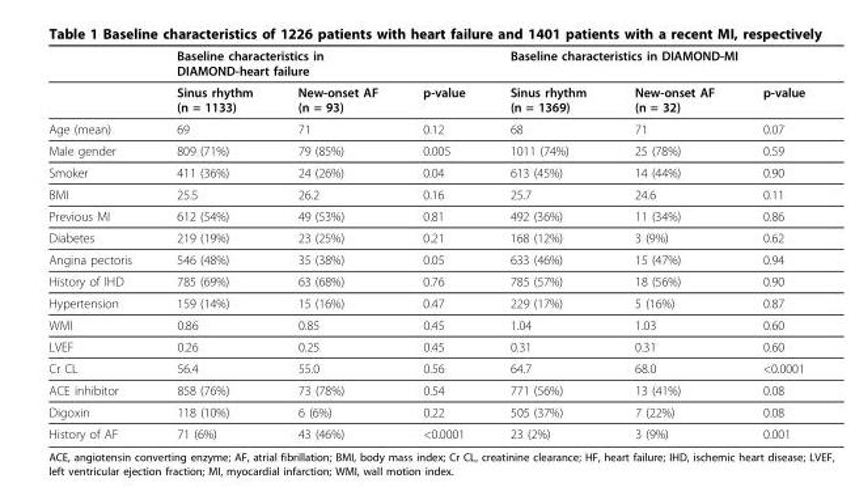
<table><thead><tr><td rowspan="2"></td><td colspan="3">Baseline characteristics in DIAMOND-heart failure</td><td colspan="3">Baseline characteristics in DIAMOND-MI</td></tr><tr><td>Sinus rhythm (n = 1133)</td><td>New-onset AF (n = 93)</td><td>p-value</td><td>Sinus rhythm (n = 1369)</td><td>New-onset AF (n = 32)</td><td>p-value</td></tr></thead><tbody><tr><td>Age (mean)</td><td>69</td><td>71</td><td>0.12</td><td>68</td><td>71</td><td>0.07</td></tr><tr><td>Male gender</td><td>809 (71%)</td><td>79 (85%)</td><td>0.005</td><td>1011 (74%)</td><td>25 (78%)</td><td>0.59</td></tr><tr><td>Smoker</td><td>411 (36%)</td><td>24 (26%)</td><td>0.04</td><td>613 (45%)</td><td>14 (44%)</td><td>0.90</td></tr><tr><td>BMI</td><td>25.5</td><td>26.2</td><td>0.16</td><td>25.7</td><td>24.6</td><td>0.11</td></tr><tr><td>Previous MI</td><td>612 (54%)</td><td>49 (53%)</td><td>0.81</td><td>492 (36%)</td><td>11 (34%)</td><td>0.86</td></tr><tr><td>Diabetes</td><td>219 (19%)</td><td>23 (25%)</td><td>0.21</td><td>168 (12%)</td><td>3 (9%)</td><td>0.62</td></tr><tr><td>Angina pectoris</td><td>546 (48%)</td><td>35 (38%)</td><td>0.05</td><td>633 (46%)</td><td>15 (47%)</td><td>0.94</td></tr><tr><td>History of IHD</td><td>785 (69%)</td><td>63 (68%)</td><td>0.76</td><td>785 (57%)</td><td>18 (56%)</td><td>0.90</td></tr><tr><td>Hypertension</td><td>159 (14%)</td><td>15 (16%)</td><td>0.47</td><td>229 (17%)</td><td>5 (16%)</td><td>0.87</td></tr><tr><td>WMI</td><td>0.86</td><td>0.85</td><td>0.45</td><td>1.04</td><td>1.03</td><td>0.60</td></tr><tr><td>LVEF</td><td>0.26</td><td>0.25</td><td>0.45</td><td>0.31</td><td>0.31</td><td>0.60</td></tr><tr><td>Cr CL</td><td>56.4</td><td>55.0</td><td>0.56</td><td>64.7</td><td>68.0</td><td>&lt;0.0001</td></tr><tr><td>ACE inhibitor</td><td>858 (76%)</td><td>73 (78%)</td><td>0.54</td><td>771 (56%)</td><td>13 (41%)</td><td>0.08</td></tr><tr><td>Digoxin</td><td>118 (10%)</td><td>6 (6%)</td><td>0.22</td><td>505 (37%)</td><td>7 (22%)</td><td>0.08</td></tr><tr><td>History of AF</td><td>71 (6%)</td><td>43 (46%)</td><td>&lt;0.0001</td><td>23 (2%)</td><td>3 (9%)</td><td>0.001</td></tr></tbody></table>